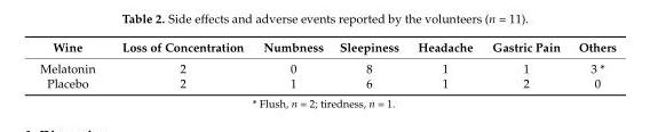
<table><thead><tr><td>Wine</td><td>Loss of Concentration</td><td>Numbness</td><td>Sleepiness</td><td>Headache</td><td>Gastric Pain</td><td>Others</td></tr></thead><tbody><tr><td>Melatonin</td><td>2</td><td>0</td><td>8</td><td>1</td><td>1</td><td>3 *</td></tr><tr><td>Placebo</td><td>2</td><td>1</td><td>6</td><td>1</td><td>2</td><td>0</td></tr></tbody></table>